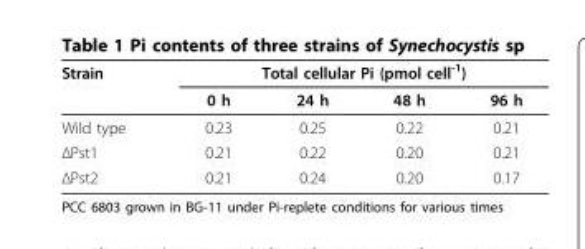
<table><thead><tr><td rowspan="2">Strain</td><td colspan="4">Total cellular Pi (pmol cell<sup>-1</sup>)</td></tr><tr><td>0 h</td><td>24 h</td><td>48 h</td><td>96 h</td></tr></thead><tbody><tr><td>Wild type</td><td>0.23</td><td>0.25</td><td>0.22</td><td>0.21</td></tr><tr><td>ΔPst1</td><td>0.21</td><td>0.22</td><td>0.20</td><td>0.21</td></tr><tr><td>ΔPst2</td><td>0.21</td><td>0.24</td><td>0.20</td><td>0.17</td></tr></tbody></table>